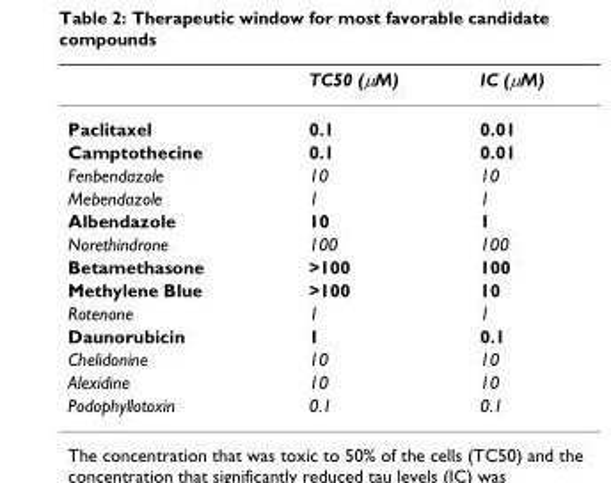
<table><thead><tr><td></td><td>TC50 (μM)</td><td>IC (μM)</td></tr></thead><tbody><tr><td>Paclitaxel</td><td>0.1</td><td>0.01</td></tr><tr><td>Camptothecine</td><td>0.1</td><td>0.01</td></tr><tr><td>Fenbendazole</td><td>10</td><td>10</td></tr><tr><td>Mebendazole</td><td>1</td><td>1</td></tr><tr><td>Albendazole</td><td>10</td><td>1</td></tr><tr><td>Norethindrone</td><td>100</td><td>100</td></tr><tr><td>Betamethasone</td><td>&gt;100</td><td>100</td></tr><tr><td>Methylene Blue</td><td>&gt;100</td><td>10</td></tr><tr><td>Rotenone</td><td>1</td><td>1</td></tr><tr><td>Daunorubicin</td><td>1</td><td>0.1</td></tr><tr><td>Chelidonine</td><td>10</td><td>10</td></tr><tr><td>Alexidine</td><td>10</td><td>10</td></tr><tr><td>Podophyllotoxin</td><td>0.1</td><td>0.1</td></tr></tbody></table>